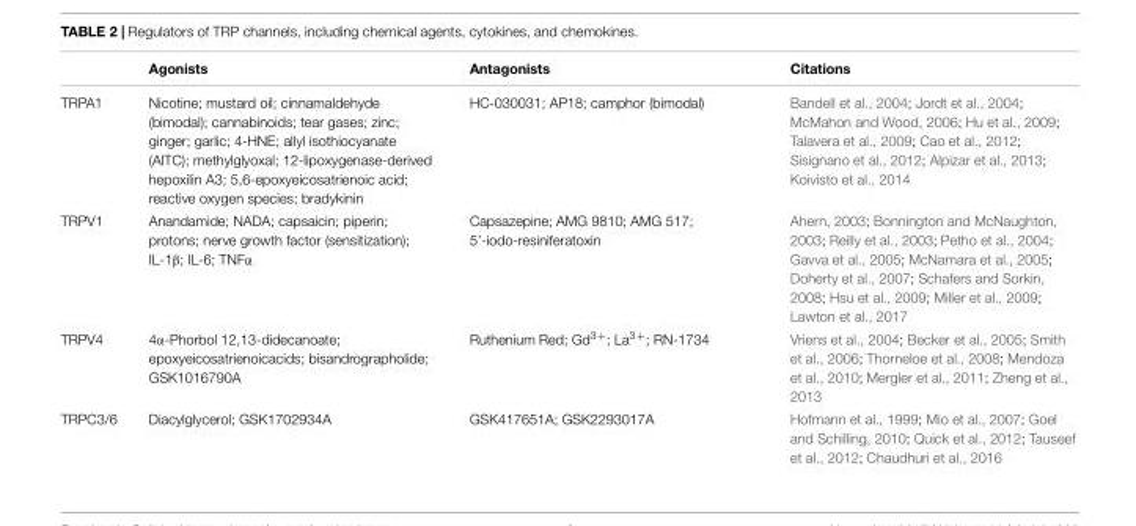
<table><thead><tr><td></td><td>Agonists</td><td>Antagonists</td><td>Citations</td></tr></thead><tbody><tr><td>TRPA1</td><td>Nicotine; mustard oil; cinnamaldehyde (bimodal); cannabinoids; tear gases; zinc; ginger; garlic; 4-HNE; allyl isothiocyanate (AITC); methylglyoxal; 12-lipoxygenase-derived hepoxilin A3; 5,6-epoxyeicosatrienoic acid; reactive oxygen species; bradykinin</td><td>HC-030031; AP18; camphor (bimodal)</td><td>Bandell et al., 2004; Jordt et al., 2004; McMahon and Wood, 2006; Hu et al., 2009; Talavera et al., 2009; Cao et al., 2012; Sisignano et al., 2012; Alpizar et al., 2013; Koivisto et al., 2014</td></tr><tr><td>TRPV1</td><td>Anandamide; NADA; capsaicin; piperin; protons; nerve growth factor (sensitization); IL-1β; IL-6; TNFα</td><td>Capsazepine; AMG 9810; AMG 517; 5’-iodo-resiniferatoxin</td><td>Ahern, 2003; Bonnington and McNaughton, 2003; Reilly et al., 2003; Petho et al., 2004; Gavva et al., 2005; McNamara et al., 2005; Doherty et al., 2007; Schafers and Sorkin, 2008; Hsu et al., 2009; Miller et al., 2009; Lawton et al., 2017</td></tr><tr><td>TRPV4</td><td>4α-Phorbol 12,13-didecanoate; epoxyeicosatrienoicacids; bisandrographolide; GSK1016790A</td><td>Ruthenium Red; Gd<sup>3+</sup>; La<sup>3+</sup>; RN-1734</td><td>Vriens et al., 2004; Becker et al., 2005; Smith et al., 2006; Thorneloe et al., 2008; Mendoza et al., 2010; Mergler et al., 2011; Zheng et al., 2013</td></tr><tr><td>TRPC3/6</td><td>Diacylglycerol; GSK1702934A</td><td>GSK417651A; GSK2293017A</td><td>Hofmann et al., 1999; Mio et al., 2007; Goel and Schilling, 2010; Quick et al., 2012; Tauseef et al., 2012; Chaudhuri et al., 2016</td></tr></tbody></table>